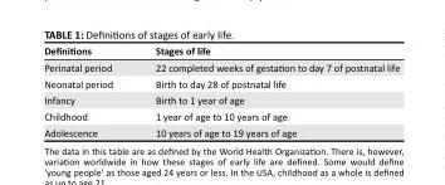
<table><thead><tr><td>Definitions</td><td>Stages of life</td></tr></thead><tbody><tr><td>Perinatal period</td><td>22 completed weeks of gestation to day 7 of postnatal life</td></tr><tr><td>Neonatal period</td><td>Birth to day 28 of postnatal life</td></tr><tr><td>Infancy</td><td>Birth to 1 year of age</td></tr><tr><td>Childhood</td><td>1 year of age to 10 years of age</td></tr><tr><td>Adolescence</td><td>10 years of age to 19 years of age</td></tr></tbody></table>